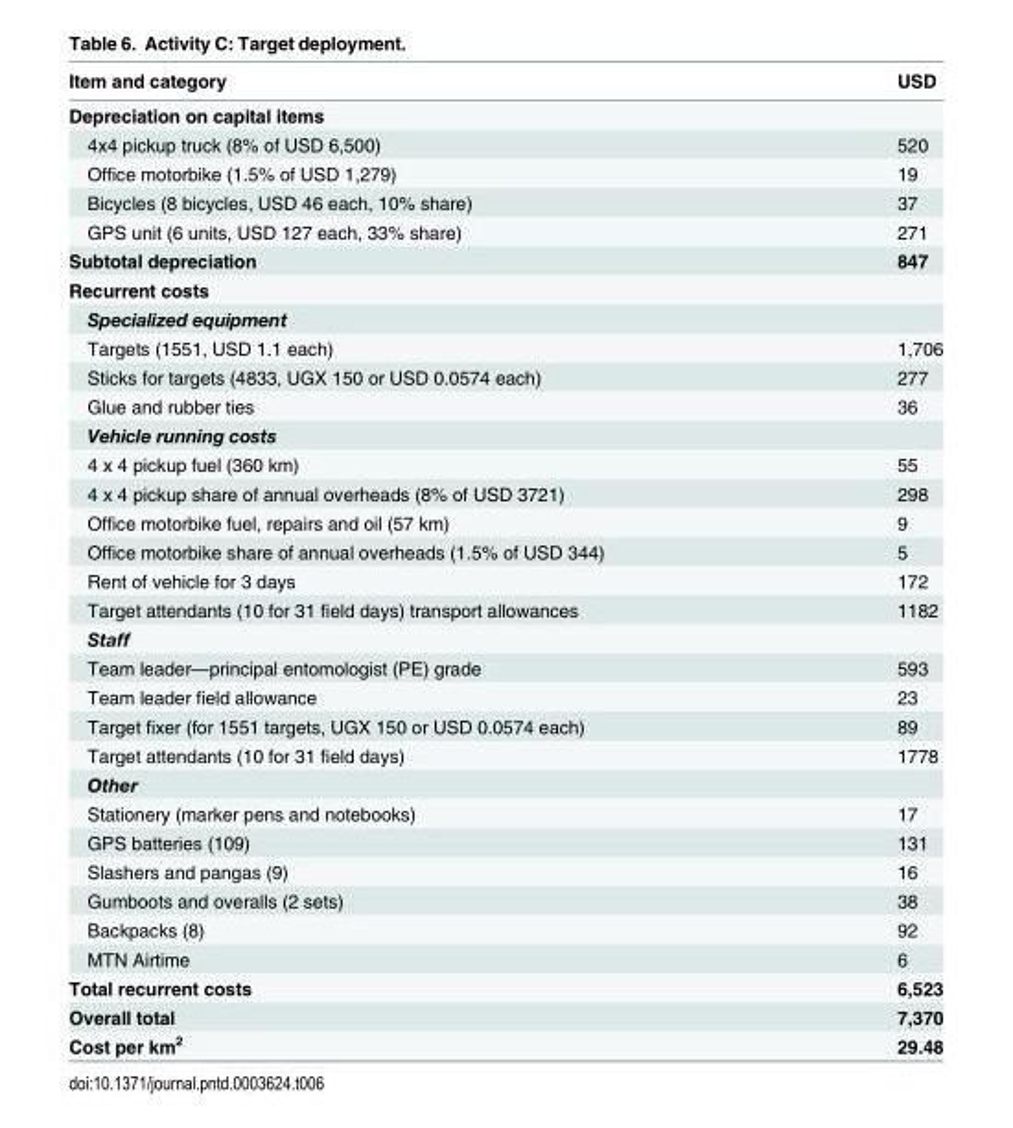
<table><thead><tr><td>Item and category</td><td>USD</td></tr></thead><tbody><tr><td colspan="2">Depreciation on capital items</td></tr><tr><td>4x4 pickup truck (8% of USD 6,500)</td><td>520</td></tr><tr><td>Office motorbike (1.5% of USD 1,279)</td><td>19</td></tr><tr><td>Bicycles (8 bicycles, USD 46 each, 10% share)</td><td>37</td></tr><tr><td>GPS unit (6 units, USD 127 each, 33% share)</td><td>271</td></tr><tr><td>Subtotal depreciation</td><td>847</td></tr><tr><td colspan="2">Recurrent costs</td></tr><tr><td colspan="2">Specialized equipment</td></tr><tr><td>Targets (1551, USD 1.1 each)</td><td>1,706</td></tr><tr><td>Sticks for targets (4833, UGX 150 or USD 0.0574 each)</td><td>277</td></tr><tr><td>Glue and rubber ties</td><td>36</td></tr><tr><td colspan="2">Vehicle running costs</td></tr><tr><td>4 x 4 pickup fuel (360 km)</td><td>55</td></tr><tr><td>4 x 4 pickup share of annual overheads (8% of USD 3721)</td><td>298</td></tr><tr><td>Office motorbike fuel, repairs and oil (57 km)</td><td>9</td></tr><tr><td>Office motorbike share of annual overheads (1.5% of USD 344)</td><td>5</td></tr><tr><td>Rent of vehicle for 3 days</td><td>172</td></tr><tr><td>Target attendants (10 for 31 field days) transport allowances</td><td>1182</td></tr><tr><td colspan="2">Staff</td></tr><tr><td>Team leader—principal entomologist (PE) grade</td><td>593</td></tr><tr><td>Team leader field allowance</td><td>23</td></tr><tr><td>Target fixer (for 1551 targets, UGX 150 or USD 0.0574 each)</td><td>89</td></tr><tr><td>Target attendants (10 for 31 field days)</td><td>1778</td></tr><tr><td colspan="2">Other</td></tr><tr><td>Stationery (marker pens and notebooks)</td><td>17</td></tr><tr><td>GPS batteries (109)</td><td>131</td></tr><tr><td>Slashers and pangas (9)</td><td>16</td></tr><tr><td>Gumboots and overalls (2 sets)</td><td>38</td></tr><tr><td>Backpacks (8)</td><td>92</td></tr><tr><td>MTN Airtime</td><td>6</td></tr><tr><td>Total recurrent costs</td><td>6,523</td></tr><tr><td>Overall total</td><td>7,370</td></tr><tr><td>Cost per km<sup>2</sup></td><td>29.48</td></tr></tbody></table>